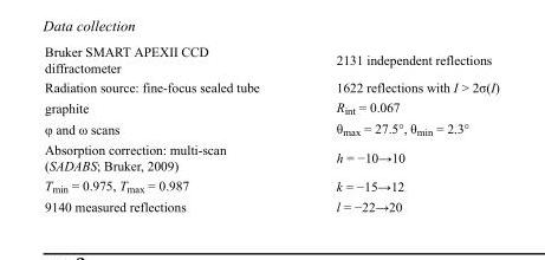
<table><tbody><tr><td>Bruker SMART APEXII CCD diffractometer</td><td>2131 independent reflections</td></tr><tr><td>Radiation source: fine-focus sealed tube</td><td>1622 reflections with I &gt; 2σ(I)</td></tr><tr><td>graphite</td><td>R<sub>int</sub> = 0.067</td></tr><tr><td>φ and ω scans</td><td>θ<sub>max</sub> = 27.5°, θ<sub>min</sub> = 2.3°</td></tr><tr><td>Absorption correction: multi-scan (SADABS; Bruker, 2009)</td><td>h = −10→10</td></tr><tr><td>T<sub>min</sub> = 0.975, T<sub>max</sub> = 0.987</td><td>k = −15→12</td></tr><tr><td>9140 measured reflections</td><td>l = −22→20</td></tr></tbody></table>